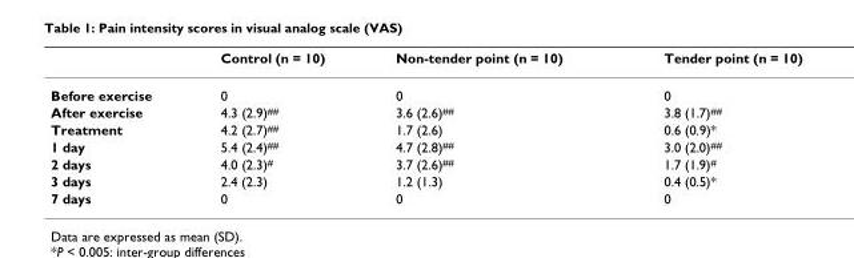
<table><thead><tr><td></td><td>Control (n = 10)</td><td>Non-tender point (n = 10)</td><td>Tender point (n = 10)</td></tr></thead><tbody><tr><td>Before exercise</td><td>0</td><td>0</td><td>0</td></tr><tr><td>After exercise</td><td>4.3 (2.9)<sup>##</sup></td><td>3.6 (2.6)<sup>##</sup></td><td>3.8 (1.7)<sup>##</sup></td></tr><tr><td>Treatment</td><td>4.2 (2.7)<sup>##</sup></td><td>1.7 (2.6)</td><td>0.6 (0.9)*</td></tr><tr><td>1 day</td><td>5.4 (2.4)<sup>##</sup></td><td>4.7 (2.8)<sup>##</sup></td><td>3.0 (2.0)<sup>##</sup></td></tr><tr><td>2 days</td><td>4.0 (2.3)<sup>#</sup></td><td>3.7 (2.6)<sup>##</sup></td><td>1.7 (1.9)<sup>#</sup></td></tr><tr><td>3 days</td><td>2.4 (2.3)</td><td>1.2 (1.3)</td><td>0.4 (0.5)*</td></tr><tr><td>7 days</td><td>0</td><td>0</td><td>0</td></tr></tbody></table>